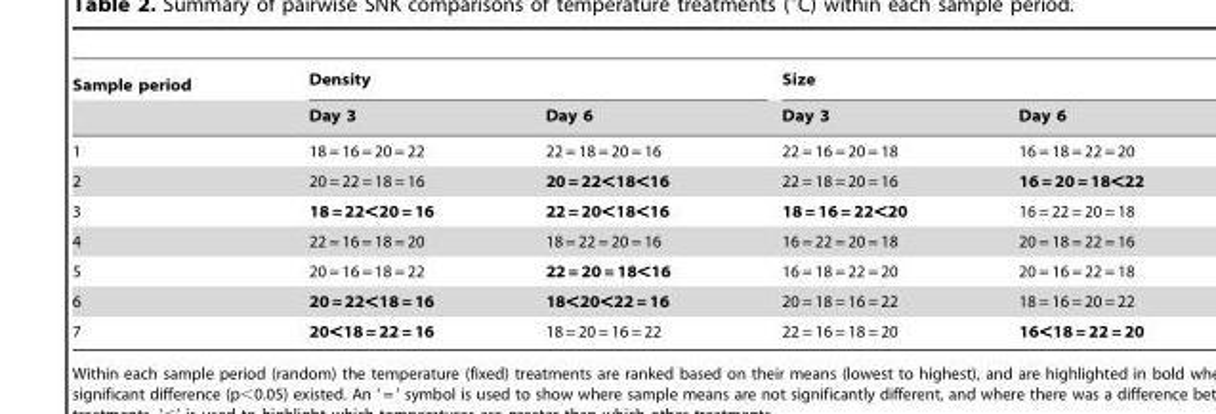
<table><thead><tr><td rowspan="2">Sample period</td><td colspan="2">Density</td><td colspan="2">Size</td></tr><tr><td>Day 3</td><td>Day 6</td><td>Day 3</td><td>Day 6</td></tr></thead><tbody><tr><td>1</td><td>18 = 16 = 20 = 22</td><td>22 = 18 = 20 = 16</td><td>22 = 16 = 20 = 18</td><td>16 = 18 = 22 = 20</td></tr><tr><td>2</td><td>20 = 22 = 18 = 16</td><td>20 = 22&lt;18&lt;16</td><td>22 = 18 = 20 = 16</td><td>16 = 20 = 18&lt;22</td></tr><tr><td>3</td><td>18 = 22&lt;20 = 16</td><td>22 = 20&lt;18&lt;16</td><td>18 = 16 = 22&lt;20</td><td>16 = 22 = 20 = 18</td></tr><tr><td>4</td><td>22 = 16 = 18 = 20</td><td>18 = 22 = 20 = 16</td><td>16 = 22 = 20 = 18</td><td>20 = 18 = 22 = 16</td></tr><tr><td>5</td><td>20 = 16 = 18 = 22</td><td>22 = 20 = 18&lt;16</td><td>16 = 18 = 22 = 20</td><td>20 = 16 = 22 = 18</td></tr><tr><td>6</td><td>20 = 22&lt;18 = 16</td><td>18&lt;20&lt;22 = 16</td><td>20 = 18 = 16 = 22</td><td>18 = 16 = 20 = 22</td></tr><tr><td>7</td><td>20&lt;18 = 22 = 16</td><td>18 = 20 = 16 = 22</td><td>22 = 16 = 18 = 20</td><td>16&lt;18 = 22 = 20</td></tr></tbody></table>